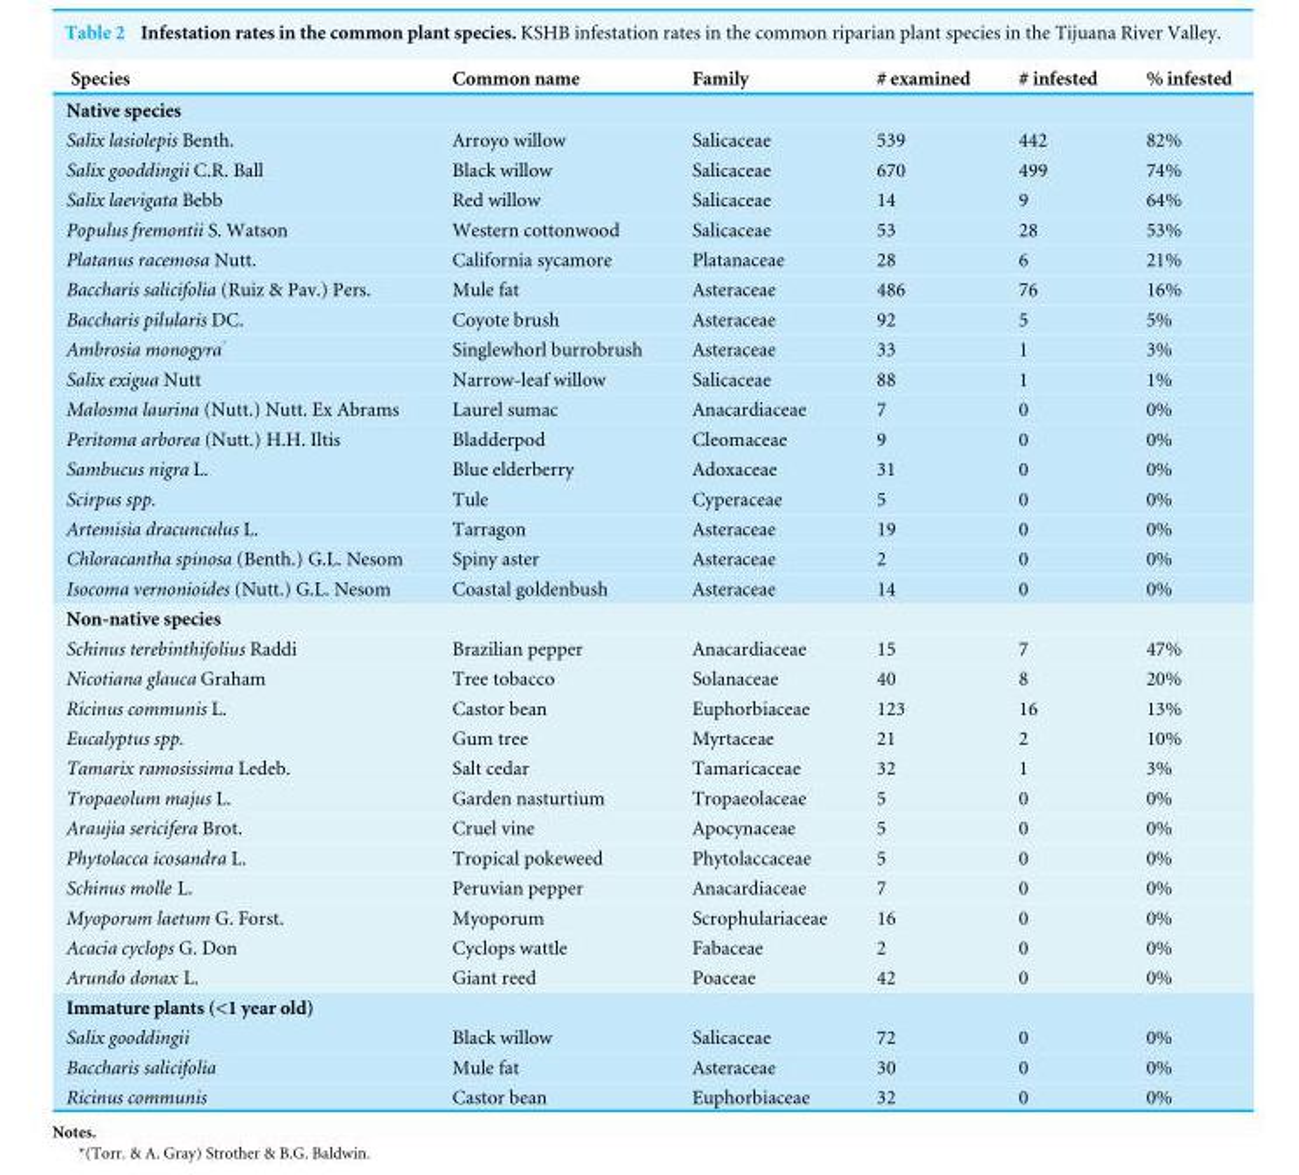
<table><thead><tr><td>Species</td><td>Common name</td><td>Family</td><td># examined</td><td># infested</td><td>% infested</td></tr></thead><tbody><tr><td colspan="6">Native species</td></tr><tr><td>Salix lasiolepis Benth.</td><td>Arroyo willow</td><td>Salicaceae</td><td>539</td><td>442</td><td>82%</td></tr><tr><td>Salix gooddingii C.R. Ball</td><td>Black willow</td><td>Salicaceae</td><td>670</td><td>499</td><td>74%</td></tr><tr><td>Salix laevigata Bebb</td><td>Red willow</td><td>Salicaceae</td><td>14</td><td>9</td><td>64%</td></tr><tr><td>Populus fremontii S. Watson</td><td>Western cottonwood</td><td>Salicaceae</td><td>53</td><td>28</td><td>53%</td></tr><tr><td>Platanus racemosa Nutt.</td><td>California sycamore</td><td>Platanaceae</td><td>28</td><td>6</td><td>21%</td></tr><tr><td>Baccharis salicifolia (Ruiz &amp; Pav.) Pers.</td><td>Mule fat</td><td>Asteraceae</td><td>486</td><td>76</td><td>16%</td></tr><tr><td>Baccharis pilularis DC.</td><td>Coyote brush</td><td>Asteraceae</td><td>92</td><td>5</td><td>5%</td></tr><tr><td>Ambrosia monogyra*</td><td>Singlewhorl burrobrush</td><td>Asteraceae</td><td>33</td><td>1</td><td>3%</td></tr><tr><td>Salix exigua Nutt</td><td>Narrow-leaf willow</td><td>Salicaceae</td><td>88</td><td>1</td><td>1%</td></tr><tr><td>Malosma laurina (Nutt.) Nutt. Ex Abrams</td><td>Laurel sumac</td><td>Anacardiaceae</td><td>7</td><td>0</td><td>0%</td></tr><tr><td>Peritoma arborea (Nutt.) H.H. Iltis</td><td>Bladderpod</td><td>Cleomaceae</td><td>9</td><td>0</td><td>0%</td></tr><tr><td>Sambucus nigra L.</td><td>Blue elderberry</td><td>Adoxaceae</td><td>31</td><td>0</td><td>0%</td></tr><tr><td>Scirpus spp.</td><td>Tule</td><td>Cyperaceae</td><td>5</td><td>0</td><td>0%</td></tr><tr><td>Artemisia dracunculus L.</td><td>Tarragon</td><td>Asteraceae</td><td>19</td><td>0</td><td>0%</td></tr><tr><td>Chloracantha spinosa (Benth.) G.L. Nesom</td><td>Spiny aster</td><td>Asteraceae</td><td>2</td><td>0</td><td>0%</td></tr><tr><td>Isocoma vernonioides (Nutt.) G.L. Nesom</td><td>Coastal goldenbush</td><td>Asteraceae</td><td>14</td><td>0</td><td>0%</td></tr><tr><td colspan="6">Non-native species</td></tr><tr><td>Schinus terebinthifolius Raddi</td><td>Brazilian pepper</td><td>Anacardiaceae</td><td>15</td><td>7</td><td>47%</td></tr><tr><td>Nicotiana glauca Graham</td><td>Tree tobacco</td><td>Solanaceae</td><td>40</td><td>8</td><td>20%</td></tr><tr><td>Ricinus communis L.</td><td>Castor bean</td><td>Euphorbiaceae</td><td>123</td><td>16</td><td>13%</td></tr><tr><td>Eucalyptus spp.</td><td>Gum tree</td><td>Myrtaceae</td><td>21</td><td>2</td><td>10%</td></tr><tr><td>Tamarix ramosissima Ledeb.</td><td>Salt cedar</td><td>Tamaricaceae</td><td>32</td><td>1</td><td>3%</td></tr><tr><td>Tropaeolum majus L.</td><td>Garden nasturtium</td><td>Tropaeolaceae</td><td>5</td><td>0</td><td>0%</td></tr><tr><td>Araujia sericifera Brot.</td><td>Cruel vine</td><td>Apocynaceae</td><td>5</td><td>0</td><td>0%</td></tr><tr><td>Phytolacca icosandra L.</td><td>Tropical pokeweed</td><td>Phytolaccaceae</td><td>5</td><td>0</td><td>0%</td></tr><tr><td>Schinus molle L.</td><td>Peruvian pepper</td><td>Anacardiaceae</td><td>7</td><td>0</td><td>0%</td></tr><tr><td>Myoporum laetum G. Forst.</td><td>Myoporum</td><td>Scrophulariaceae</td><td>16</td><td>0</td><td>0%</td></tr><tr><td>Acacia cyclops G. Don</td><td>Cyclops wattle</td><td>Fabaceae</td><td>2</td><td>0</td><td>0%</td></tr><tr><td>Arundo donax L.</td><td>Giant reed</td><td>Poaceae</td><td>42</td><td>0</td><td>0%</td></tr><tr><td colspan="6">Immature plants (&lt;1 year old)</td></tr><tr><td>Salix gooddingii</td><td>Black willow</td><td>Salicaceae</td><td>72</td><td>0</td><td>0%</td></tr><tr><td>Baccharis salicifolia</td><td>Mule fat</td><td>Asteraceae</td><td>30</td><td>0</td><td>0%</td></tr><tr><td>Ricinus communis</td><td>Castor bean</td><td>Euphorbiaceae</td><td>32</td><td>0</td><td>0%</td></tr></tbody></table>